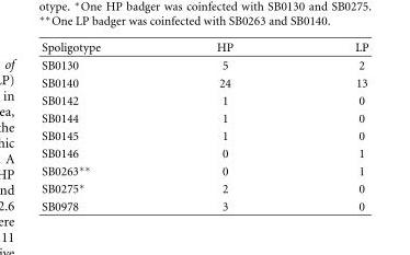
<table><thead><tr><td>Spoligotype</td><td>HP</td><td>LP</td></tr></thead><tbody><tr><td>SB0130</td><td>5</td><td>2</td></tr><tr><td>SB0140</td><td>24</td><td>13</td></tr><tr><td>SB0142</td><td>1</td><td>0</td></tr><tr><td>SB0144</td><td>1</td><td>0</td></tr><tr><td>SB0145</td><td>1</td><td>0</td></tr><tr><td>SB0146</td><td>0</td><td>1</td></tr><tr><td>SB0263∗∗</td><td>0</td><td>1</td></tr><tr><td>SB0275∗</td><td>2</td><td>0</td></tr><tr><td>SB0978</td><td>3</td><td>0</td></tr></tbody></table>